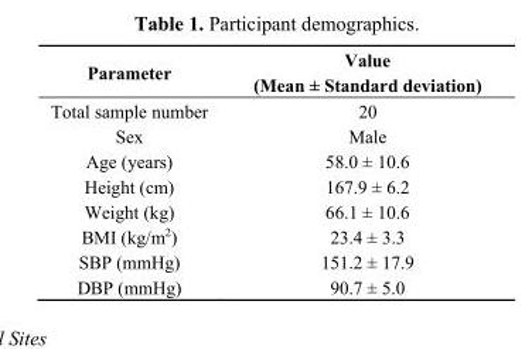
<table><thead><tr><td>Parameter</td><td>Value (Mean ± Standard deviation)</td></tr></thead><tbody><tr><td>Total sample number</td><td>20</td></tr><tr><td>Sex</td><td>Male</td></tr><tr><td>Age (years)</td><td>58.0 ± 10.6</td></tr><tr><td>Height (cm)</td><td>167.9 ± 6.2</td></tr><tr><td>Weight (kg)</td><td>66.1 ± 10.6</td></tr><tr><td>BMI (kg/m<sup>2</sup>)</td><td>23.4 ± 3.3</td></tr><tr><td>SBP (mmHg)</td><td>151.2 ± 17.9</td></tr><tr><td>DBP (mmHg)</td><td>90.7 ± 5.0</td></tr></tbody></table>